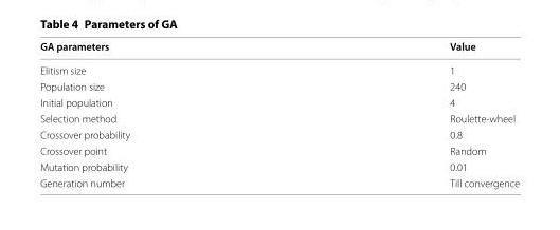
<table><thead><tr><td>GA parameters</td><td>Value</td></tr></thead><tbody><tr><td>Elitism size</td><td>1</td></tr><tr><td>Population size</td><td>240</td></tr><tr><td>Initial population</td><td>4</td></tr><tr><td>Selection method</td><td>Roulette-wheel</td></tr><tr><td>Crossover probability</td><td>0.8</td></tr><tr><td>Crossover point</td><td>Random</td></tr><tr><td>Mutation probability</td><td>0.01</td></tr><tr><td>Generation number</td><td>Till convergence</td></tr></tbody></table>